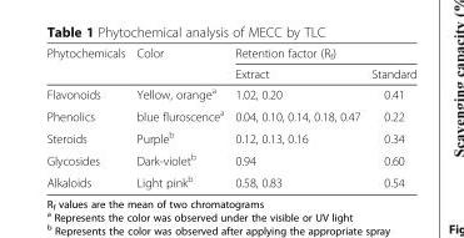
<table><thead><tr><td rowspan="2">Phytochemicals</td><td rowspan="2">Color</td><td colspan="2">Retention factor (R<sub>f</sub>)</td></tr><tr><td>Extract</td><td>Standard</td></tr></thead><tbody><tr><td>Flavonoids</td><td>Yellow, orange<sup>a</sup></td><td>1.02, 0.20</td><td>0.41</td></tr><tr><td>Phenolics</td><td>blue fluroscence<sup>a</sup></td><td>0.04, 0.10, 0.14, 0.18, 0.47</td><td>0.22</td></tr><tr><td>Steroids</td><td>Purple<sup>b</sup></td><td>0.12, 0.13, 0.16</td><td>0.34</td></tr><tr><td>Glycosides</td><td>Dark-violet<sup>b</sup></td><td>0.94</td><td>0.60</td></tr><tr><td>Alkaloids</td><td>Light pink<sup>b</sup></td><td>0.58, 0.83</td><td>0.54</td></tr></tbody></table>